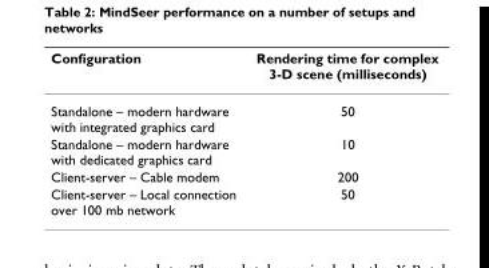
<table><thead><tr><td>Configuration</td><td>Rendering time for complex 3-D scene (milliseconds)</td></tr></thead><tbody><tr><td>Standalone – modern hardware with integrated graphics card</td><td>50</td></tr><tr><td>Standalone – modern hardware with dedicated graphics card</td><td>10</td></tr><tr><td>Client-server – Cable modem</td><td>200</td></tr><tr><td>Client-server – Local connection over 100 mb network</td><td>50</td></tr></tbody></table>